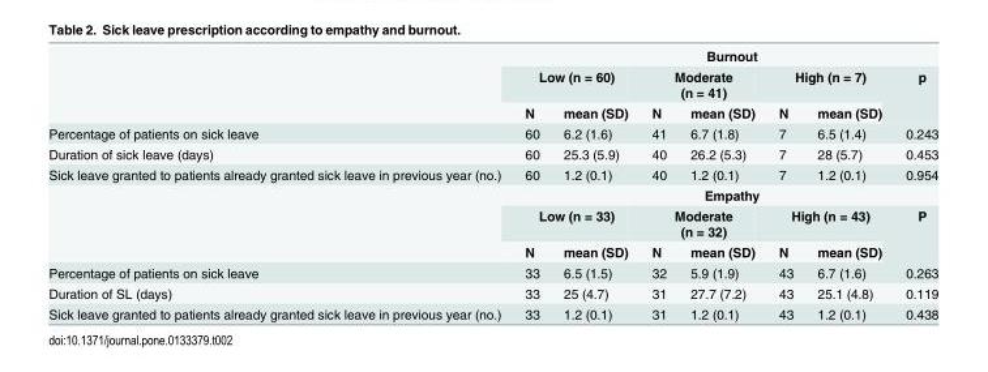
<table><thead><tr><td rowspan="3"></td><td colspan="7">Burnout</td></tr><tr><td colspan="2">Low (n = 60)</td><td colspan="2">Moderate (n = 41)</td><td colspan="2">High (n = 7)</td><td rowspan="2">p</td></tr><tr><td>N</td><td>mean (SD)</td><td>N</td><td>mean (SD)</td><td>N</td><td>mean (SD)</td></tr></thead><tbody><tr><td>Percentage of patients on sick leave</td><td>60</td><td>6.2 (1.6)</td><td>41</td><td>6.7 (1.8)</td><td>7</td><td>6.5 (1.4)</td><td>0.243</td></tr><tr><td>Duration of sick leave (days)</td><td>60</td><td>25.3 (5.9)</td><td>40</td><td>26.2 (5.3)</td><td>7</td><td>28 (5.7)</td><td>0.453</td></tr><tr><td rowspan="4">Sick leave granted to patients already granted sick leave in previous year (no.)</td><td>60</td><td>1.2 (0.1)</td><td>40</td><td>1.2 (0.1)</td><td>7</td><td>1.2 (0.1)</td><td>0.954</td></tr><tr><td colspan="7">Empathy</td></tr><tr><td colspan="2">Low (n = 33)</td><td colspan="2">Moderate (n = 32)</td><td colspan="2">High (n = 43)</td><td rowspan="2">P</td></tr><tr><td>N</td><td>mean (SD)</td><td>N</td><td>mean (SD)</td><td>N</td><td>mean (SD)</td></tr><tr><td>Percentage of patients on sick leave</td><td>33</td><td>6.5 (1.5)</td><td>32</td><td>5.9 (1.9)</td><td>43</td><td>6.7 (1.6)</td><td>0.263</td></tr><tr><td>Duration of SL (days)</td><td>33</td><td>25 (4.7)</td><td>31</td><td>27.7 (7.2)</td><td>43</td><td>25.1 (4.8)</td><td>0.119</td></tr><tr><td>Sick leave granted to patients already granted sick leave in previous year (no.)</td><td>33</td><td>1.2 (0.1)</td><td>31</td><td>1.2 (0.1)</td><td>43</td><td>1.2 (0.1)</td><td>0.438</td></tr></tbody></table>